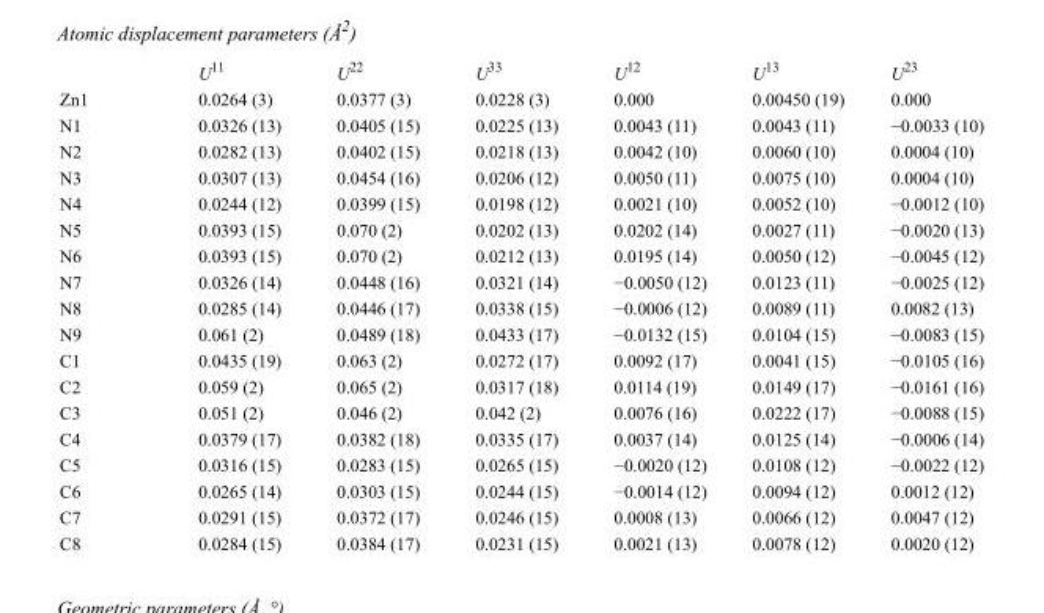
<table><thead><tr><td></td><td>U<sup>11</sup></td><td>U<sup>22</sup></td><td>U<sup>33</sup></td><td>U<sup>12</sup></td><td>U<sup>13</sup></td><td>U<sup>23</sup></td></tr></thead><tbody><tr><td>Zn1</td><td>0.0264 (3)</td><td>0.0377 (3)</td><td>0.0228 (3)</td><td>0.000</td><td>0.00450 (19)</td><td>0.000</td></tr><tr><td>N1</td><td>0.0326 (13)</td><td>0.0405 (15)</td><td>0.0225 (13)</td><td>0.0043 (11)</td><td>0.0043 (11)</td><td>−0.0033 (10)</td></tr><tr><td>N2</td><td>0.0282 (13)</td><td>0.0402 (15)</td><td>0.0218 (13)</td><td>0.0042 (10)</td><td>0.0060 (10)</td><td>0.0004 (10)</td></tr><tr><td>N3</td><td>0.0307 (13)</td><td>0.0454 (16)</td><td>0.0206 (12)</td><td>0.0050 (11)</td><td>0.0075 (10)</td><td>0.0004 (10)</td></tr><tr><td>N4</td><td>0.0244 (12)</td><td>0.0399 (15)</td><td>0.0198 (12)</td><td>0.0021 (10)</td><td>0.0052 (10)</td><td>−0.0012 (10)</td></tr><tr><td>N5</td><td>0.0393 (15)</td><td>0.070 (2)</td><td>0.0202 (13)</td><td>0.0202 (14)</td><td>0.0027 (11)</td><td>−0.0020 (13)</td></tr><tr><td>N6</td><td>0.0393 (15)</td><td>0.070 (2)</td><td>0.0212 (13)</td><td>0.0195 (14)</td><td>0.0050 (12)</td><td>−0.0045 (12)</td></tr><tr><td>N7</td><td>0.0326 (14)</td><td>0.0448 (16)</td><td>0.0321 (14)</td><td>−0.0050 (12)</td><td>0.0123 (11)</td><td>−0.0025 (12)</td></tr><tr><td>N8</td><td>0.0285 (14)</td><td>0.0446 (17)</td><td>0.0338 (15)</td><td>−0.0006 (12)</td><td>0.0089 (11)</td><td>0.0082 (13)</td></tr><tr><td>N9</td><td>0.061 (2)</td><td>0.0489 (18)</td><td>0.0433 (17)</td><td>−0.0132 (15)</td><td>0.0104 (15)</td><td>−0.0083 (15)</td></tr><tr><td>C1</td><td>0.0435 (19)</td><td>0.063 (2)</td><td>0.0272 (17)</td><td>0.0092 (17)</td><td>0.0041 (15)</td><td>−0.0105 (16)</td></tr><tr><td>C2</td><td>0.059 (2)</td><td>0.065 (2)</td><td>0.0317 (18)</td><td>0.0114 (19)</td><td>0.0149 (17)</td><td>−0.0161 (16)</td></tr><tr><td>C3</td><td>0.051 (2)</td><td>0.046 (2)</td><td>0.042 (2)</td><td>0.0076 (16)</td><td>0.0222 (17)</td><td>−0.0088 (15)</td></tr><tr><td>C4</td><td>0.0379 (17)</td><td>0.0382 (18)</td><td>0.0335 (17)</td><td>0.0037 (14)</td><td>0.0125 (14)</td><td>−0.0006 (14)</td></tr><tr><td>C5</td><td>0.0316 (15)</td><td>0.0283 (15)</td><td>0.0265 (15)</td><td>−0.0020 (12)</td><td>0.0108 (12)</td><td>−0.0022 (12)</td></tr><tr><td>C6</td><td>0.0265 (14)</td><td>0.0303 (15)</td><td>0.0244 (15)</td><td>−0.0014 (12)</td><td>0.0094 (12)</td><td>0.0012 (12)</td></tr><tr><td>C7</td><td>0.0291 (15)</td><td>0.0372 (17)</td><td>0.0246 (15)</td><td>0.0008 (13)</td><td>0.0066 (12)</td><td>0.0047 (12)</td></tr><tr><td>C8</td><td>0.0284 (15)</td><td>0.0384 (17)</td><td>0.0231 (15)</td><td>0.0021 (13)</td><td>0.0078 (12)</td><td>0.0020 (12)</td></tr></tbody></table>